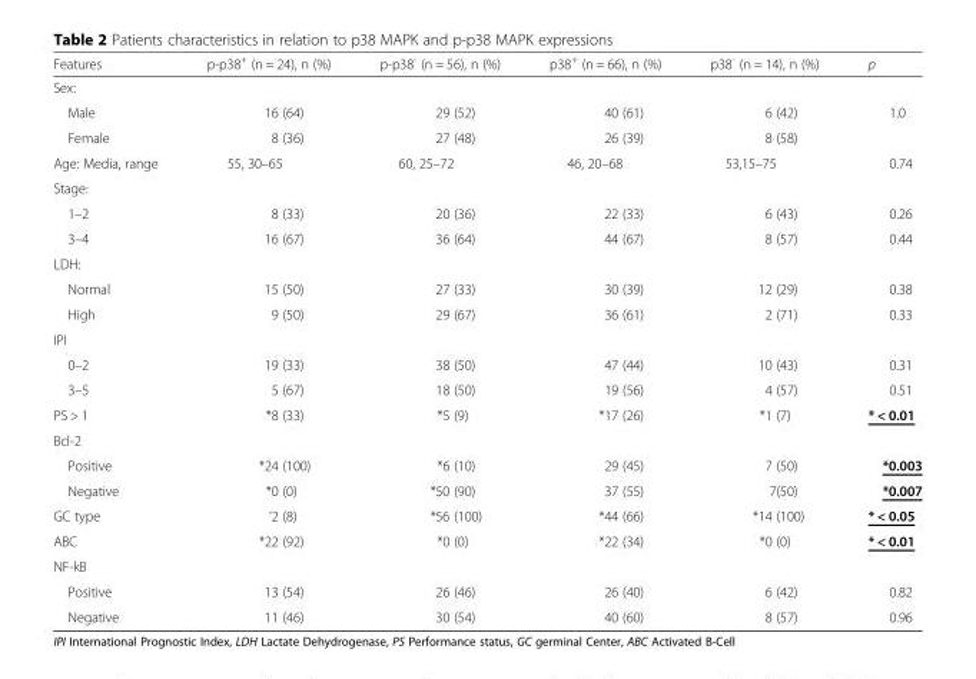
<table><thead><tr><td>Features</td><td>p-p38<sup>+</sup> (n = 24), n (%)</td><td>p-p38<sup>-</sup> (n = 56), n (%)</td><td>p38<sup>+</sup> (n = 66), n (%)</td><td>p38<sup>-</sup> (n = 14), n (%)</td><td>p</td></tr></thead><tbody><tr><td colspan="6">Sex:</td></tr><tr><td>Male</td><td>16 (64)</td><td>29 (52)</td><td>40 (61)</td><td>6 (42)</td><td>1.0</td></tr><tr><td>Female</td><td>8 (36)</td><td>27 (48)</td><td>26 (39)</td><td>8 (58)</td><td></td></tr><tr><td>Age: Media, range</td><td>55, 30–65</td><td>60, 25–72</td><td>46, 20–68</td><td>53,15–75</td><td>0.74</td></tr><tr><td colspan="6">Stage:</td></tr><tr><td>1–2</td><td>8 (33)</td><td>20 (36)</td><td>22 (33)</td><td>6 (43)</td><td>0.26</td></tr><tr><td>3–4</td><td>16 (67)</td><td>36 (64)</td><td>44 (67)</td><td>8 (57)</td><td>0.44</td></tr><tr><td colspan="6">LDH:</td></tr><tr><td>Normal</td><td>15 (50)</td><td>27 (33)</td><td>30 (39)</td><td>12 (29)</td><td>0.38</td></tr><tr><td>High</td><td>9 (50)</td><td>29 (67)</td><td>36 (61)</td><td>2 (71)</td><td>0.33</td></tr><tr><td colspan="6">IPI</td></tr><tr><td>0–2</td><td>19 (33)</td><td>38 (50)</td><td>47 (44)</td><td>10 (43)</td><td>0.31</td></tr><tr><td>3–5</td><td>5 (67)</td><td>18 (50)</td><td>19 (56)</td><td>4 (57)</td><td>0.51</td></tr><tr><td>PS &gt; 1</td><td>*8 (33)</td><td>*5 (9)</td><td>*17 (26)</td><td>*1 (7)</td><td>* &lt; 0.01</td></tr><tr><td colspan="6">Bcl-2</td></tr><tr><td>Positive</td><td>*24 (100)</td><td>*6 (10)</td><td>29 (45)</td><td>7 (50)</td><td>*0.003</td></tr><tr><td>Negative</td><td>*0 (0)</td><td>*50 (90)</td><td>37 (55)</td><td>7(50)</td><td>*0.007</td></tr><tr><td>GC type</td><td>‘2 (8)</td><td>*56 (100)</td><td>*44 (66)</td><td>*14 (100)</td><td>* &lt; 0.05</td></tr><tr><td>ABC</td><td>*22 (92)</td><td>*0 (0)</td><td>*22 (34)</td><td>*0 (0)</td><td>* &lt; 0.01</td></tr><tr><td colspan="6">NF-kB</td></tr><tr><td>Positive</td><td>13 (54)</td><td>26 (46)</td><td>26 (40)</td><td>6 (42)</td><td>0.82</td></tr><tr><td>Negative</td><td>11 (46)</td><td>30 (54)</td><td>40 (60)</td><td>8 (57)</td><td>0.96</td></tr></tbody></table>